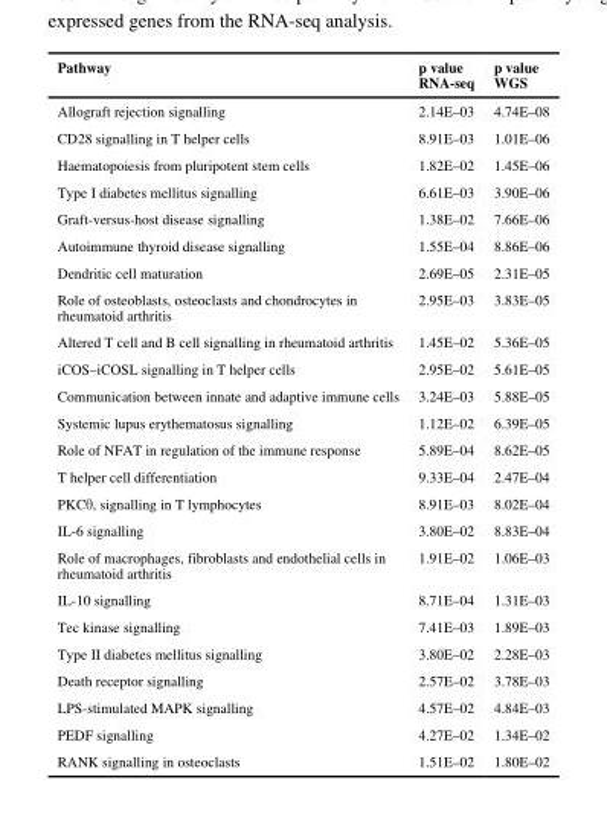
<table><thead><tr><td>Pathway</td><td>p value RNA-seq</td><td>p value WGS</td></tr></thead><tbody><tr><td>Allograft rejection signalling</td><td>2.14E–03</td><td>4.74E–08</td></tr><tr><td>CD28 signalling in T helper cells</td><td>8.91E–03</td><td>1.01E–06</td></tr><tr><td>Haematopoiesis from pluripotent stem cells</td><td>1.82E–02</td><td>1.45E–06</td></tr><tr><td>Type I diabetes mellitus signalling</td><td>6.61E–03</td><td>3.90E–06</td></tr><tr><td>Graft-versus-host disease signalling</td><td>1.38E–02</td><td>7.66E–06</td></tr><tr><td>Autoimmune thyroid disease signalling</td><td>1.55E–04</td><td>8.86E–06</td></tr><tr><td>Dendritic cell maturation</td><td>2.69E–05</td><td>2.31E–05</td></tr><tr><td>Role of osteoblasts, osteoclasts and chondrocytes in rheumatoid arthritis</td><td>2.95E–03</td><td>3.83E–05</td></tr><tr><td>Altered T cell and B cell signalling in rheumatoid arthritis</td><td>1.45E–02</td><td>5.36E–05</td></tr><tr><td>iCOS–iCOSL signalling in T helper cells</td><td>2.95E–02</td><td>5.61E–05</td></tr><tr><td>Communication between innate and adaptive immune cells</td><td>3.24E–03</td><td>5.88E–05</td></tr><tr><td>Systemic lupus erythematosus signalling</td><td>1.12E–02</td><td>6.39E–05</td></tr><tr><td>Role of NFAT in regulation of the immune response</td><td>5.89E–04</td><td>8.62E–05</td></tr><tr><td>T helper cell differentiation</td><td>9.33E–04</td><td>2.47E–04</td></tr><tr><td>PKCθ, signalling in T lymphocytes</td><td>8.91E–03</td><td>8.02E–04</td></tr><tr><td>IL-6 signalling</td><td>3.80E–02</td><td>8.83E–04</td></tr><tr><td>Role of macrophages, fibroblasts and endothelial cells in rheumatoid arthritis</td><td>1.91E–02</td><td>1.06E–03</td></tr><tr><td>IL-10 signalling</td><td>8.71E–04</td><td>1.31E–03</td></tr><tr><td>Tec kinase signalling</td><td>7.41E–03</td><td>1.89E–03</td></tr><tr><td>Type II diabetes mellitus signalling</td><td>3.80E–02</td><td>2.28E–03</td></tr><tr><td>Death receptor signalling</td><td>2.57E–02</td><td>3.78E–03</td></tr><tr><td>LPS-stimulated MAPK signalling</td><td>4.57E–02</td><td>4.84E–03</td></tr><tr><td>PEDF signalling</td><td>4.27E–02</td><td>1.34E–02</td></tr><tr><td>RANK signalling in osteoclasts</td><td>1.51E–02</td><td>1.80E–02</td></tr></tbody></table>